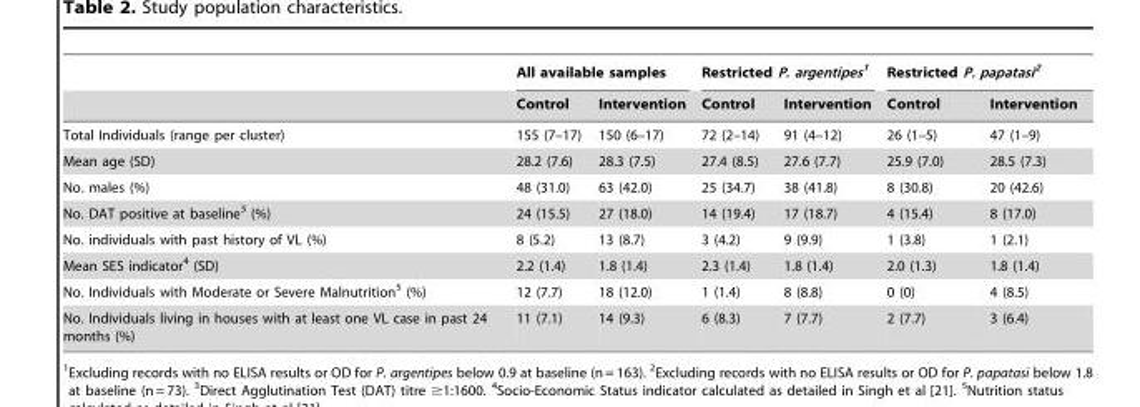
<table><thead><tr><td rowspan="2"></td><td colspan="2">All available samples</td><td colspan="2">Restricted P. argentipes1</td><td colspan="2">Restricted P. papatasi<sup>2</sup></td></tr><tr><td>Control</td><td>Intervention</td><td>Control</td><td>Intervention</td><td>Control</td><td>Intervention</td></tr></thead><tbody><tr><td>Total Individuals (range per cluster)</td><td>155 (7–17)</td><td>150 (6–17)</td><td>72 (2–14)</td><td>91 (4–12)</td><td>26 (1–5)</td><td>47 (1–9)</td></tr><tr><td>Mean age (SD)</td><td>28.2 (7.6)</td><td>28.3 (7.5)</td><td>27.4 (8.5)</td><td>27.6 (7.7)</td><td>25.9 (7.0)</td><td>28.5 (7.3)</td></tr><tr><td>No. males (%)</td><td>48 (31.0)</td><td>63 (42.0)</td><td>25 (34.7)</td><td>38 (41.8)</td><td>8 (30.8)</td><td>20 (42.6)</td></tr><tr><td>No. DAT positive at baseline<sup>3</sup> (%)</td><td>24 (15.5)</td><td>27 (18.0)</td><td>14 (19.4)</td><td>17 (18.7)</td><td>4 (15.4)</td><td>8 (17.0)</td></tr><tr><td>No. individuals with past history of VL (%)</td><td>8 (5.2)</td><td>13 (8.7)</td><td>3 (4.2)</td><td>9 (9.9)</td><td>1 (3.8)</td><td>1 (2.1)</td></tr><tr><td>Mean SES indicator<sup>4</sup> (SD)</td><td>2.2 (1.4)</td><td>1.8 (1.4)</td><td>2.3 (1.4)</td><td>1.8 (1.4)</td><td>2.0 (1.3)</td><td>1.8 (1.4)</td></tr><tr><td>No. Individuals with Moderate or Severe Malnutrition<sup>5</sup> (%)</td><td>12 (7.7)</td><td>18 (12.0)</td><td>1 (1.4)</td><td>8 (8.8)</td><td>0 (0)</td><td>4 (8.5)</td></tr><tr><td>No. Individuals living in houses with at least one VL case in past 24 months (%)</td><td>11 (7.1)</td><td>14 (9.3)</td><td>6 (8.3)</td><td>7 (7.7)</td><td>2 (7.7)</td><td>3 (6.4)</td></tr></tbody></table>